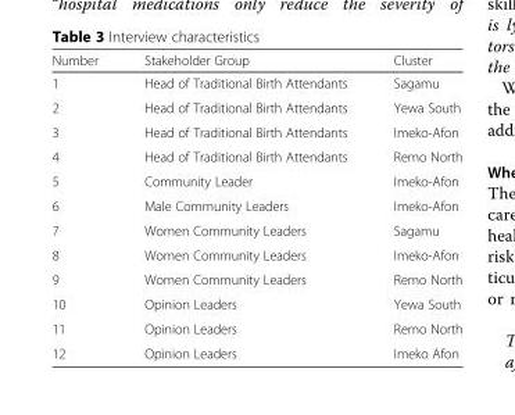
<table><thead><tr><td>Number</td><td>Stakeholder Group</td><td>Cluster</td></tr></thead><tbody><tr><td>1</td><td>Head of Traditional Birth Attendants</td><td>Sagamu</td></tr><tr><td>2</td><td>Head of Traditional Birth Attendants</td><td>Yewa South</td></tr><tr><td>3</td><td>Head of Traditional Birth Attendants</td><td>Imeko-Afon</td></tr><tr><td>4</td><td>Head of Traditional Birth Attendants</td><td>Remo North</td></tr><tr><td>5</td><td>Community Leader</td><td>Imeko-Afon</td></tr><tr><td>6</td><td>Male Community Leaders</td><td>Imeko-Afon</td></tr><tr><td>7</td><td>Women Community Leaders</td><td>Sagamu</td></tr><tr><td>8</td><td>Women Community Leaders</td><td>Imeko-Afon</td></tr><tr><td>9</td><td>Women Community Leaders</td><td>Remo North</td></tr><tr><td>10</td><td>Opinion Leaders</td><td>Yewa South</td></tr><tr><td>11</td><td>Opinion Leaders</td><td>Remo North</td></tr><tr><td>12</td><td>Opinion Leaders</td><td>Imeko Afon</td></tr></tbody></table>